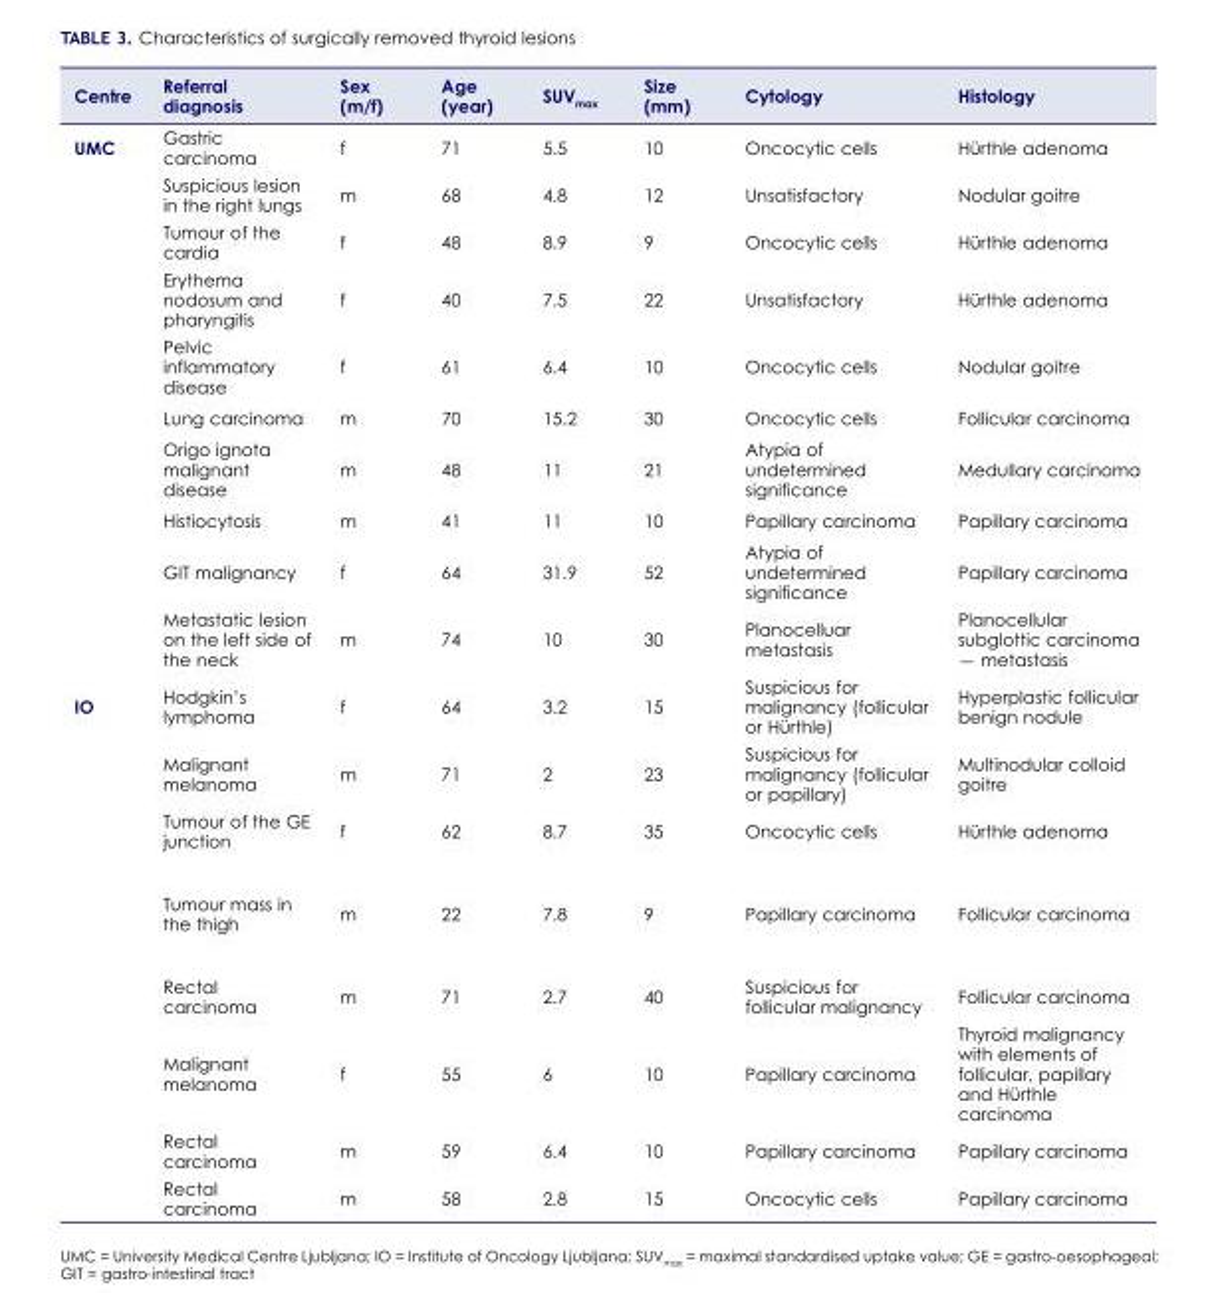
<table><thead><tr><td>Centre</td><td>Referral diagnosis</td><td>Sex (m/f)</td><td>Age (year)</td><td>SUV<sub>max</sub></td><td>Size (mm)</td><td>Cytology</td><td>Histology</td></tr></thead><tbody><tr><td rowspan="10">UMC</td><td>Gastric carcinoma</td><td>f</td><td>71</td><td>5.5</td><td>10</td><td>Oncocytic cells</td><td>Hürthle adenoma</td></tr><tr><td>Suspicious lesion in the right lungs</td><td>m</td><td>68</td><td>4.8</td><td>12</td><td>Unsatisfactory</td><td>Nodular goitre</td></tr><tr><td>Tumour of the cardia</td><td>f</td><td>48</td><td>8.9</td><td>9</td><td>Oncocytic cells</td><td>Hürthle adenoma</td></tr><tr><td>Erythema nodosum and pharyngitis</td><td>f</td><td>40</td><td>7.5</td><td>22</td><td>Unsatisfactory</td><td>Hürthle adenoma</td></tr><tr><td>Pelvic inflammatory disease</td><td>f</td><td>61</td><td>6.4</td><td>10</td><td>Oncocytic cells</td><td>Nodular goitre</td></tr><tr><td>Lung carcinoma</td><td>m</td><td>70</td><td>15.2</td><td>30</td><td>Oncocytic cells</td><td>Follicular carcinoma</td></tr><tr><td>Origo ignota malignant disease</td><td>m</td><td>48</td><td>11</td><td>21</td><td>Atypia of undetermined significance</td><td>Medullary carcinoma</td></tr><tr><td>Histiocytosis</td><td>m</td><td>41</td><td>11</td><td>10</td><td>Papillary carcinoma</td><td>Papillary carcinoma</td></tr><tr><td>GIT malignancy</td><td>f</td><td>64</td><td>31.9</td><td>52</td><td>Atypia of undetermined significance</td><td>Papillary carcinoma</td></tr><tr><td>Metastatic lesion on the left side of the neck</td><td>m</td><td>74</td><td>10</td><td>30</td><td>Planocelluar metastasis</td><td>Planocellular subglottic carcinoma — metastasis</td></tr><tr><td rowspan="8">IO</td><td>Hodgkin’s lymphoma</td><td>f</td><td>64</td><td>3.2</td><td>15</td><td>Suspicious for malignancy (follicular or Hürthle)</td><td>Hyperplastic follicular benign nodule</td></tr><tr><td>Malignant melanoma</td><td>m</td><td>71</td><td>2</td><td>23</td><td>Suspicious for malignancy (follicular or papillary)</td><td>Multinodular colloid goitre</td></tr><tr><td>Tumour of the GE junction</td><td>f</td><td>62</td><td>8.7</td><td>35</td><td>Oncocytic cells</td><td>Hürthle adenoma</td></tr><tr><td>Tumour mass in the thigh</td><td>m</td><td>22</td><td>7.8</td><td>9</td><td>Papillary carcinoma</td><td>Follicular carcinoma</td></tr><tr><td>Rectal carcinoma</td><td>m</td><td>71</td><td>2.7</td><td>40</td><td>Suspicious for follicular malignancy</td><td>Follicular carcinoma</td></tr><tr><td>Malignant melanoma</td><td>f</td><td>55</td><td>6</td><td>10</td><td>Papillary carcinoma</td><td>Thyroid malignancy with elements of follicular, papillary and Hürthle carcinoma</td></tr><tr><td>Rectal carcinoma</td><td>m</td><td>59</td><td>6.4</td><td>10</td><td>Papillary carcinoma</td><td>Papillary carcinoma</td></tr><tr><td>Rectal carcinoma</td><td>m</td><td>58</td><td>2.8</td><td>15</td><td>Oncocytic cells</td><td>Papillary carcinoma</td></tr></tbody></table>